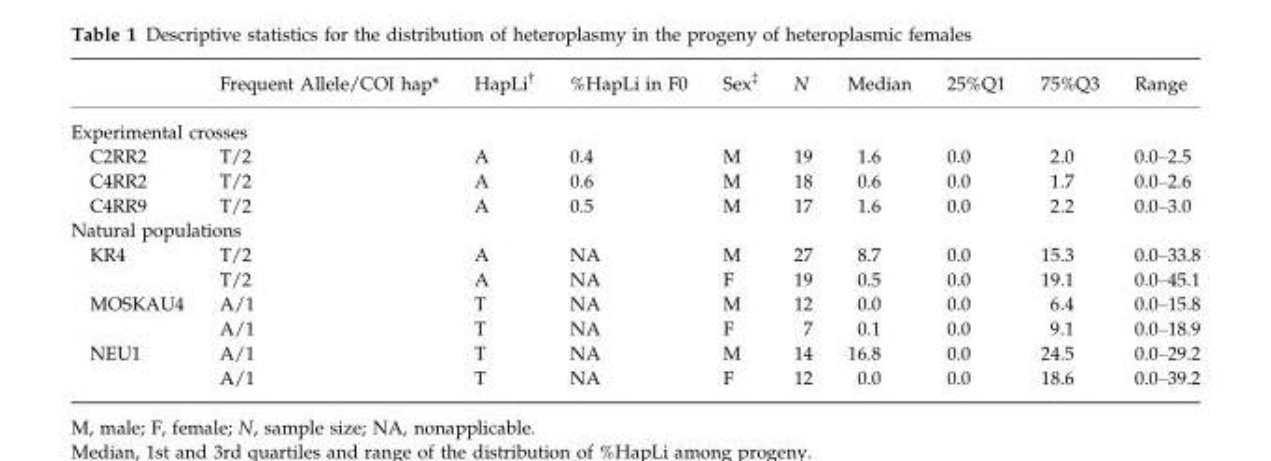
<table><thead><tr><td></td><td>Frequent Allele/COI hap*</td><td>HapLi†</td><td>%HapLi in F0</td><td>Sex‡</td><td>N</td><td>Median</td><td>25%Q1</td><td>75%Q3</td><td>Range</td></tr></thead><tbody><tr><td colspan="10">Experimental crosses</td></tr><tr><td>C2RR2</td><td>T/2</td><td>A</td><td>0.4</td><td>M</td><td>19</td><td>1.6</td><td>0.0</td><td>2.0</td><td>0.0–2.5</td></tr><tr><td>C4RR2</td><td>T/2</td><td>A</td><td>0.6</td><td>M</td><td>18</td><td>0.6</td><td>0.0</td><td>1.7</td><td>0.0–2.6</td></tr><tr><td>C4RR9</td><td>T/2</td><td>A</td><td>0.5</td><td>M</td><td>17</td><td>1.6</td><td>0.0</td><td>2.2</td><td>0.0–3.0</td></tr><tr><td colspan="10">Natural populations</td></tr><tr><td rowspan="2">KR4</td><td>T/2</td><td>A</td><td>NA</td><td>M</td><td>27</td><td>8.7</td><td>0.0</td><td>15.3</td><td>0.0–33.8</td></tr><tr><td>T/2</td><td>A</td><td>NA</td><td>F</td><td>19</td><td>0.5</td><td>0.0</td><td>19.1</td><td>0.0–45.1</td></tr><tr><td rowspan="2">MOSKAU4</td><td>A/1</td><td>T</td><td>NA</td><td>M</td><td>12</td><td>0.0</td><td>0.0</td><td>6.4</td><td>0.0–15.8</td></tr><tr><td>A/1</td><td>T</td><td>NA</td><td>F</td><td>7</td><td>0.1</td><td>0.0</td><td>9.1</td><td>0.0–18.9</td></tr><tr><td rowspan="2">NEU1</td><td>A/1</td><td>T</td><td>NA</td><td>M</td><td>14</td><td>16.8</td><td>0.0</td><td>24.5</td><td>0.0–29.2</td></tr><tr><td>A/1</td><td>T</td><td>NA</td><td>F</td><td>12</td><td>0.0</td><td>0.0</td><td>18.6</td><td>0.0–39.2</td></tr></tbody></table>